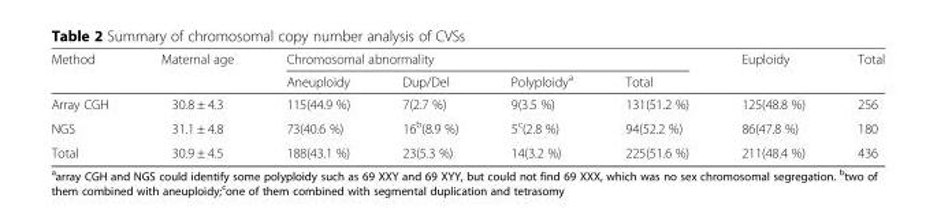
<table><thead><tr><td rowspan="2">Method</td><td rowspan="2">Maternal age</td><td colspan="4">Chromosomal abnormality</td><td rowspan="2">Euploidy</td><td rowspan="2">Total</td></tr><tr><td>Aneuploidy</td><td>Dup/Del</td><td>Polyploidy<sup>a</sup></td><td>Total</td></tr></thead><tbody><tr><td>Array CGH</td><td>30.8 ± 4.3</td><td>115(44.9 %)</td><td>7(2.7 %)</td><td>9(3.5 %)</td><td>131(51.2 %)</td><td>125(48.8 %)</td><td>256</td></tr><tr><td>NGS</td><td>31.1 ± 4.8</td><td>73(40.6 %)</td><td>16<sup>b</sup>(8.9 %)</td><td>5<sup>c</sup>(2.8 %)</td><td>94(52.2 %)</td><td>86(47.8 %)</td><td>180</td></tr><tr><td>Total</td><td>30.9 ± 4.5</td><td>188(43.1 %)</td><td>23(5.3 %)</td><td>14(3.2 %)</td><td>225(51.6 %)</td><td>211(48.4 %)</td><td>436</td></tr></tbody></table>